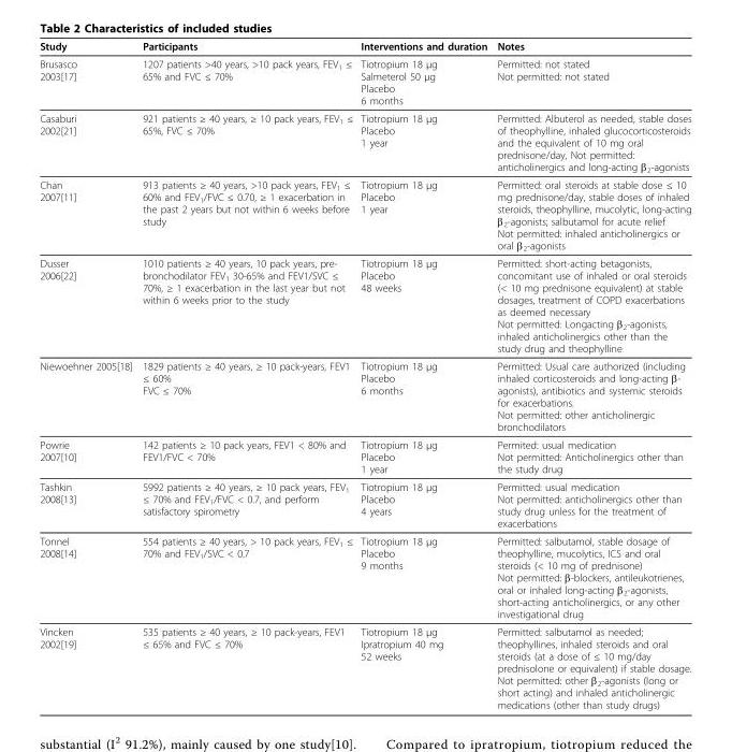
<table><thead><tr><td>Study</td><td>Participants</td><td>Interventions and duration</td><td>Notes</td></tr></thead><tbody><tr><td>Brusasco 2003[17]</td><td>1207 patients &gt;40 years, &gt;10 pack years, FEV<sub>1</sub> ≤ 65% and FVC ≤ 70%</td><td>Tiotropium 18 μg Salmeterol 50 μg Placebo 6 months</td><td>Permitted: not stated Not permitted: not stated</td></tr><tr><td>Casaburi 2002[21]</td><td>921 patients ≥ 40 years, ≥ 10 pack years, FEV<sub>1</sub> ≤ 65%, FVC ≤ 70%</td><td>Tiotropium 18 μg Placebo 1 year</td><td>Permitted: Albuterol as needed, stable doses of theophylline, inhaled glucocorticosteroids and the equivalent of 10 mg oral prednisone/day, Not permitted: anticholinergics and long-acting β<sub>2</sub>-agonists</td></tr><tr><td>Chan 2007[11]</td><td>913 patients ≥ 40 years, &gt;10 pack years, FEV<sub>1</sub> ≤ 60% and FEV<sub>1</sub>/FVC ≤ 0.70, ≥ 1 exacerbation in the past 2 years but not within 6 weeks before study</td><td>Tiotropium 18 μg Placebo 1 year</td><td>Permitted: oral steroids at stable dose ≤ 10 mg prednisone/day, stable doses of inhaled steroids, theophylline, mucolytic, long-acting β<sub>2</sub>-agonists; salbutamol for acute relief Not permitted: inhaled anticholinergics or oral β<sub>2</sub>-agonists</td></tr><tr><td>Dusser 2006[22]</td><td>1010 patients ≥ 40 years, 10 pack years, pre- bronchodilator FEV<sub>1</sub> 30-65% and FEV1/SVC ≤ 70%, ≥ 1 exacerbation in the last year but not within 6 weeks prior to the study</td><td>Tiotropium 18 μg Placebo 48 weeks</td><td>Permitted: short-acting betagonists, concomitant use of inhaled or oral steroids (&lt; 10 mg prednisone equivalent) at stable dosages, treatment of COPD exacerbations as deemed necessary Not permitted: Longacting β<sub>2</sub>-agonists, inhaled anticholinergics other than the study drug and theophylline</td></tr><tr><td>Niewoehner 2005[18]</td><td>1829 patients ≥ 40 years, ≥ 10 pack-years, FEV1 ≤ 60% FVC ≤ 70%</td><td>Tiotropium 18 μg Placebo 6 months</td><td>Permitted: Usual care authorized (including inhaled corticosteroids and long-acting β- agonists), antibiotics and systemic steroids for exacerbations. Not permitted: other anticholinergic bronchodilators</td></tr><tr><td>Powrie 2007[10]</td><td>142 patients ≥ 10 pack years, FEV1 &lt; 80% and FEV1/FVC &lt; 70%</td><td>Tiotropium 18 μg Placebo 1 year</td><td>Permited: usual medication Not permitted: Anticholinergics other than the study drug</td></tr><tr><td>Tashkin 2008[13]</td><td>5992 patients ≥ 40 years, ≥ 10 pack years, FEV<sub>1</sub> ≤ 70% and FEV<sub>1</sub>/FVC &lt; 0.7, and perform satisfactory spirometry</td><td>Tiotropium 18 μg Placebo 4 years</td><td>Permitted: usual medication Not permitted: anticholinergics other than study drug unless for the treatment of exacerbations</td></tr><tr><td>Tonnel 2008[14]</td><td>554 patients ≥ 40 years, &gt; 10 pack years, FEV<sub>1</sub> ≤ 70% and FEV<sub>1</sub>/SVC &lt; 0.7</td><td>Tiotropium 18 μg Placebo 9 months</td><td>Permitted: salbutamol, stable dosage of theophylline, mucolytics, ICS and oral steroids (&lt; 10 mg of prednisone) Not permitted: β-blockers, antileukotrienes, oral or inhaled long-acting β<sub>2</sub>-agonists, short-acting anticholinergics, or any other investigational drug</td></tr><tr><td>Vincken 2002[19]</td><td>535 patients ≥ 40 years, ≥ 10 pack-years, FEV1 ≤ 65% and FVC ≤ 70%</td><td>Tiotropium 18 μg Ipratropium 40 mg 52 weeks</td><td>Permitted: salbutamol as needed; theophyllines, inhaled steroids and oral steroids (at a dose of ≤ 10 mg/day prednisolone or equivalent) if stable dosage. Not permitted: other β<sub>2</sub>-agonists (long or short acting) and inhaled anticholinergic medications (other than study drugs)</td></tr></tbody></table>